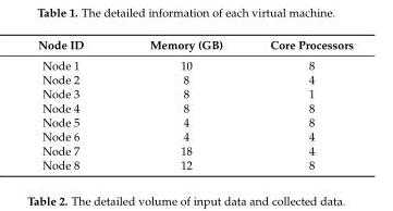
<table><thead><tr><td>Node ID</td><td>Memory (GB)</td><td>Core Processors</td></tr></thead><tbody><tr><td>Node 1</td><td>10</td><td>8</td></tr><tr><td>Node 2</td><td>8</td><td>4</td></tr><tr><td>Node 3</td><td>8</td><td>1</td></tr><tr><td>Node 4</td><td>8</td><td>8</td></tr><tr><td>Node 5</td><td>4</td><td>8</td></tr><tr><td>Node 6</td><td>4</td><td>4</td></tr><tr><td>Node 7</td><td>18</td><td>4</td></tr><tr><td>Node 8</td><td>12</td><td>8</td></tr></tbody></table>